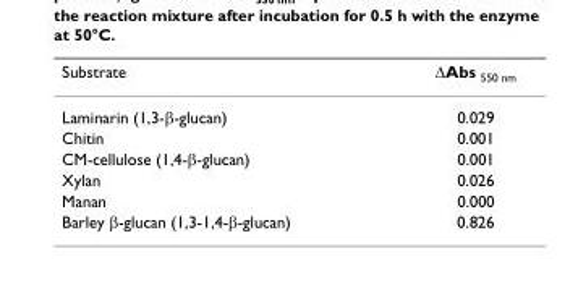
<table><thead><tr><td>Substrate</td><td>∆Abs 550 nm</td></tr></thead><tbody><tr><td>Laminarin (1,3-β-glucan)</td><td>0.029</td></tr><tr><td>Chitin</td><td>0.001</td></tr><tr><td>CM-cellulose (1,4-β-glucan)</td><td>0.001</td></tr><tr><td>Xylan</td><td>0.026</td></tr><tr><td>Manan</td><td>0.000</td></tr><tr><td>Barley β-glucan (1,3-1,4-β-glucan)</td><td>0.826</td></tr></tbody></table>